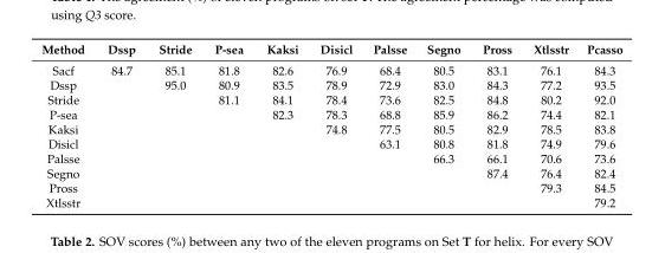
<table><thead><tr><td>Method</td><td>Dssp</td><td>Stride</td><td>P-sea</td><td>Kaksi</td><td>Disicl</td><td>Palsse</td><td>Segno</td><td>Pross</td><td>Xtlsstr</td><td>Pcasso</td></tr></thead><tbody><tr><td>Sacf</td><td>84.7</td><td>85.1</td><td>81.8</td><td>82.6</td><td>76.9</td><td>68.4</td><td>80.5</td><td>83.1</td><td>76.1</td><td>84.3</td></tr><tr><td>Dssp</td><td></td><td>95.0</td><td>80.9</td><td>83.5</td><td>78.9</td><td>72.9</td><td>83.0</td><td>84.3</td><td>77.2</td><td>93.5</td></tr><tr><td>Stride</td><td></td><td></td><td>81.1</td><td>84.1</td><td>78.4</td><td>73.6</td><td>82.5</td><td>84.8</td><td>80.2</td><td>92.0</td></tr><tr><td>P-sea</td><td></td><td></td><td></td><td>82.3</td><td>78.3</td><td>68.8</td><td>85.9</td><td>86.2</td><td>74.4</td><td>82.1</td></tr><tr><td>Kaksi</td><td></td><td></td><td></td><td></td><td>74.8</td><td>77.5</td><td>80.5</td><td>82.9</td><td>78.5</td><td>83.8</td></tr><tr><td>Disicl</td><td></td><td></td><td></td><td></td><td></td><td>63.1</td><td>80.8</td><td>81.8</td><td>74.9</td><td>79.6</td></tr><tr><td>Palsse</td><td></td><td></td><td></td><td></td><td></td><td></td><td>66.3</td><td>66.1</td><td>70.6</td><td>73.6</td></tr><tr><td>Segno</td><td></td><td></td><td></td><td></td><td></td><td></td><td></td><td>87.4</td><td>76.4</td><td>82.4</td></tr><tr><td>Pross</td><td></td><td></td><td></td><td></td><td></td><td></td><td></td><td></td><td>79.3</td><td>84.5</td></tr><tr><td>Xtlsstr</td><td></td><td></td><td></td><td></td><td></td><td></td><td></td><td></td><td></td><td>79.2</td></tr></tbody></table>